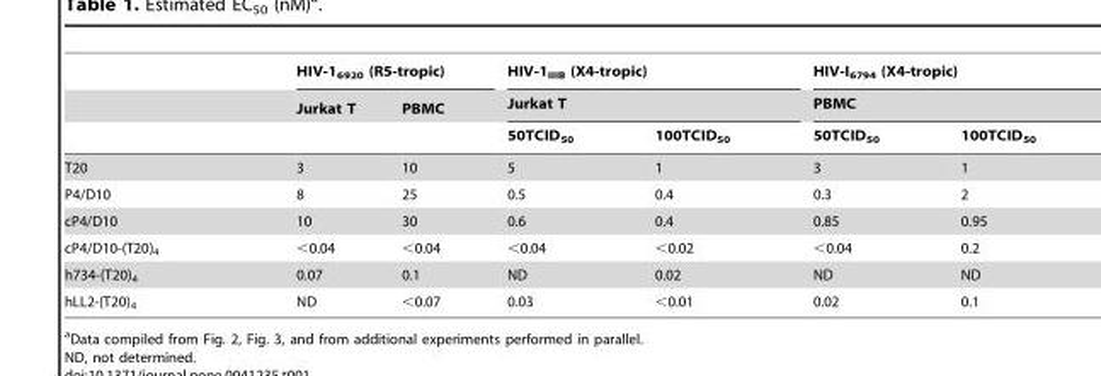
<table><thead><tr><td rowspan="3"></td><td colspan="2">HIV-1<sub>6920</sub> (R5-tropic)</td><td rowspan="2" colspan="2">HIV-1<sub>IIIB</sub> (X4-tropic) Jurkat T</td><td rowspan="2" colspan="2">HIV-I<sub>6794</sub> (X4-tropic) PBMC</td></tr><tr><td rowspan="2">Jurkat T</td><td rowspan="2">PBMC</td></tr><tr><td>50TCID<sub>50</sub></td><td>100TCID<sub>50</sub></td><td>50TCID<sub>50</sub></td><td>100TCID<sub>50</sub></td></tr></thead><tbody><tr><td>T20</td><td>3</td><td>10</td><td>5</td><td>1</td><td>3</td><td>1</td></tr><tr><td>P4/D10</td><td>8</td><td>25</td><td>0.5</td><td>0.4</td><td>0.3</td><td>2</td></tr><tr><td>cP4/D10</td><td>10</td><td>30</td><td>0.6</td><td>0.4</td><td>0.85</td><td>0.95</td></tr><tr><td>cP4/D10-(T20)<sub>4</sub></td><td>&lt;0.04</td><td>&lt;0.04</td><td>&lt;0.04</td><td>&lt;0.02</td><td>&lt;0.04</td><td>0.2</td></tr><tr><td>h734-(T20)<sub>4</sub></td><td>0.07</td><td>0.1</td><td>ND</td><td>0.02</td><td>ND</td><td>ND</td></tr><tr><td>hLL2-(T20)<sub>4</sub></td><td>ND</td><td>&lt;0.07</td><td>0.03</td><td>&lt;0.01</td><td>0.02</td><td>0.1</td></tr></tbody></table>